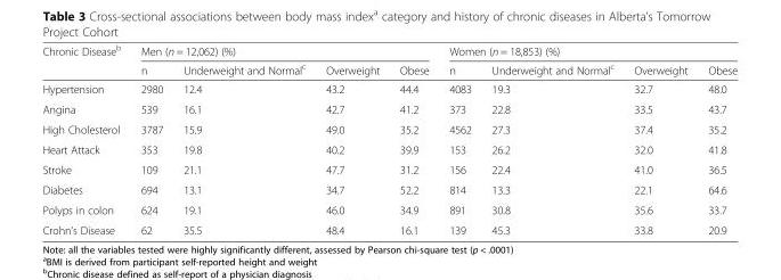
<table><thead><tr><td rowspan="2">Chronic Disease<sup>b</sup></td><td colspan="4">Men (n = 12,062) (%)</td><td colspan="4">Women (n = 18,853) (%)</td></tr><tr><td>n</td><td>Underweight and Normal<sup>c</sup></td><td>Overweight</td><td>Obese</td><td>n</td><td>Underweight and Normal<sup>c</sup></td><td>Overweight</td><td>Obese</td></tr></thead><tbody><tr><td>Hypertension</td><td>2980</td><td>12.4</td><td>43.2</td><td>44.4</td><td>4083</td><td>19.3</td><td>32.7</td><td>48.0</td></tr><tr><td>Angina</td><td>539</td><td>16.1</td><td>42.7</td><td>41.2</td><td>373</td><td>22.8</td><td>33.5</td><td>43.7</td></tr><tr><td>High Cholesterol</td><td>3787</td><td>15.9</td><td>49.0</td><td>35.2</td><td>4562</td><td>27.3</td><td>37.4</td><td>35.2</td></tr><tr><td>Heart Attack</td><td>353</td><td>19.8</td><td>40.2</td><td>39.9</td><td>153</td><td>26.2</td><td>32.0</td><td>41.8</td></tr><tr><td>Stroke</td><td>109</td><td>21.1</td><td>47.7</td><td>31.2</td><td>156</td><td>22.4</td><td>41.0</td><td>36.5</td></tr><tr><td>Diabetes</td><td>694</td><td>13.1</td><td>34.7</td><td>52.2</td><td>814</td><td>13.3</td><td>22.1</td><td>64.6</td></tr><tr><td>Polyps in colon</td><td>624</td><td>19.1</td><td>46.0</td><td>34.9</td><td>891</td><td>30.8</td><td>35.6</td><td>33.7</td></tr><tr><td>Crohn’s Disease</td><td>62</td><td>35.5</td><td>48.4</td><td>16.1</td><td>139</td><td>45.3</td><td>33.8</td><td>20.9</td></tr></tbody></table>